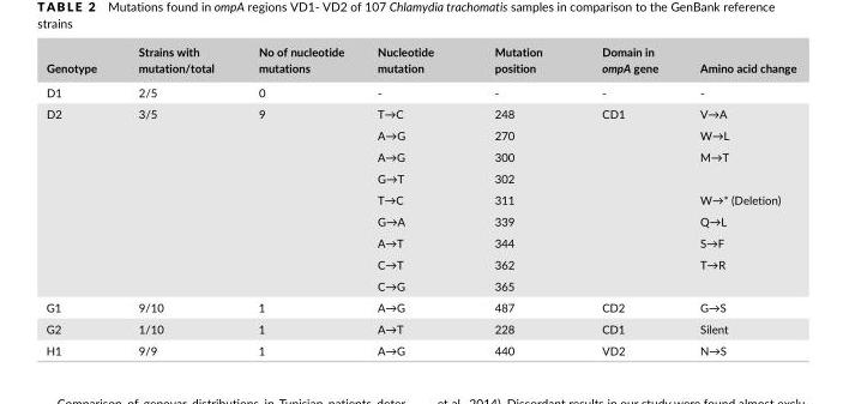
<table><thead><tr><td>Genotype</td><td>Strains with mutation/total</td><td>No of nucleotide mutations</td><td>Nucleotide mutation</td><td>Mutation position</td><td>Domain in ompA gene</td><td>Amino acid change</td></tr></thead><tbody><tr><td>D1</td><td>2/5</td><td>0</td><td>-</td><td>-</td><td>-</td><td>-</td></tr><tr><td rowspan="9">D2</td><td>3/5</td><td>9</td><td>T→C</td><td>248</td><td>CD1</td><td>V→A</td></tr><tr><td></td><td></td><td>A→G</td><td>270</td><td></td><td>W→L</td></tr><tr><td></td><td></td><td>A→G</td><td>300</td><td></td><td rowspan="2">M→T</td></tr><tr><td></td><td></td><td>G→T</td><td>302</td><td></td></tr><tr><td></td><td></td><td>T→C</td><td>311</td><td></td><td>W→* (Deletion)</td></tr><tr><td></td><td></td><td>G→A</td><td>339</td><td></td><td>Q→L</td></tr><tr><td></td><td></td><td>A→T</td><td>344</td><td></td><td>S→F</td></tr><tr><td></td><td></td><td>C→T</td><td>362</td><td></td><td rowspan="2">T→R</td></tr><tr><td></td><td></td><td>C→G</td><td>365</td><td></td></tr><tr><td>G1</td><td>9/10</td><td>1</td><td>A→G</td><td>487</td><td>CD2</td><td>G→S</td></tr><tr><td>G2</td><td>1/10</td><td>1</td><td>A→T</td><td>228</td><td>CD1</td><td>Silent</td></tr><tr><td>H1</td><td>9/9</td><td>1</td><td>A→G</td><td>440</td><td>VD2</td><td>N→S</td></tr></tbody></table>